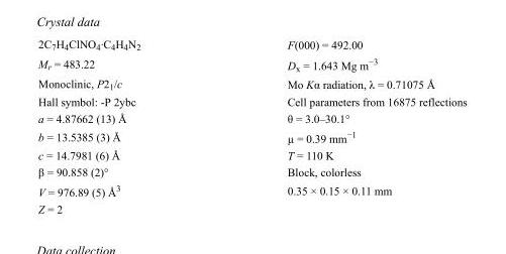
<table><tbody><tr><td>2C<sub>7</sub>H<sub>4</sub>ClNO<sub>4</sub>·C<sub>4</sub>H<sub>4</sub>N<sub>2</sub></td><td>F(000) = 492.00</td></tr><tr><td>M<sub>r</sub> = 483.22</td><td>D<sub>x</sub> = 1.643 Mg m<sup>−3</sup></td></tr><tr><td>Monoclinic, P2<sub>1</sub>/c</td><td>Mo Kα radiation, λ = 0.71075 Å</td></tr><tr><td>Hall symbol: -P 2ybc</td><td>Cell parameters from 16875 reflections</td></tr><tr><td>a = 4.87662 (13) Å</td><td>θ = 3.0–30.1°</td></tr><tr><td>b = 13.5385 (3) Å</td><td>µ = 0.39 mm<sup>−1</sup></td></tr><tr><td>c = 14.7981 (6) Å</td><td>T = 110 K</td></tr><tr><td>β = 90.858 (2)°</td><td>Block, colorless</td></tr><tr><td>V = 976.89 (5) Å<sup>3</sup></td><td>0.35 × 0.15 × 0.11 mm</td></tr><tr><td>Z = 2</td><td></td></tr></tbody></table>